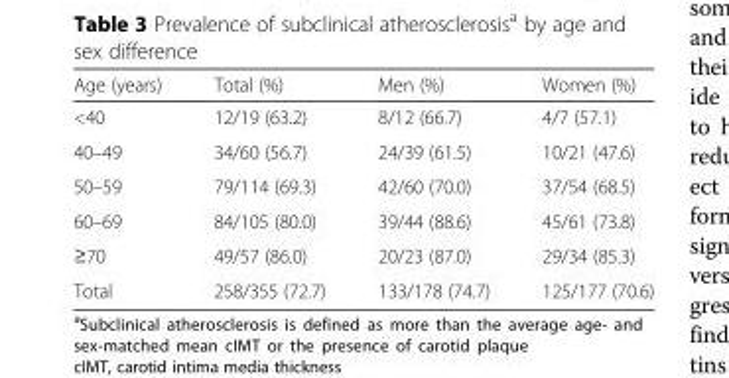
<table><thead><tr><td>Age (years)</td><td>Total (%)</td><td>Men (%)</td><td>Women (%)</td></tr></thead><tbody><tr><td>&lt;40</td><td>12/19 (63.2)</td><td>8/12 (66.7)</td><td>4/7 (57.1)</td></tr><tr><td>40–49</td><td>34/60 (56.7)</td><td>24/39 (61.5)</td><td>10/21 (47.6)</td></tr><tr><td>50–59</td><td>79/114 (69.3)</td><td>42/60 (70.0)</td><td>37/54 (68.5)</td></tr><tr><td>60–69</td><td>84/105 (80.0)</td><td>39/44 (88.6)</td><td>45/61 (73.8)</td></tr><tr><td>≥70</td><td>49/57 (86.0)</td><td>20/23 (87.0)</td><td>29/34 (85.3)</td></tr><tr><td>Total</td><td>258/355 (72.7)</td><td>133/178 (74.7)</td><td>125/177 (70.6)</td></tr></tbody></table>